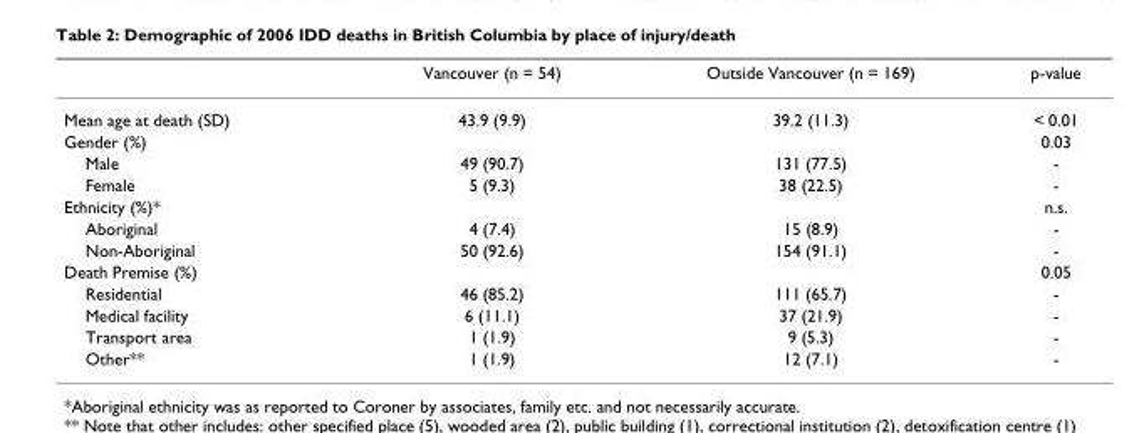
<table><thead><tr><td></td><td>Vancouver (n = 54)</td><td>Outside Vancouver (n = 169)</td><td>p-value</td></tr></thead><tbody><tr><td>Mean age at death (SD)</td><td>43.9 (9.9)</td><td>39.2 (11.3)</td><td>&lt; 0.01</td></tr><tr><td>Gender (%)</td><td></td><td></td><td>0.03</td></tr><tr><td>Male</td><td>49 (90.7)</td><td>131 (77.5)</td><td>-</td></tr><tr><td>Female</td><td>5 (9.3)</td><td>38 (22.5)</td><td>-</td></tr><tr><td>Ethnicity (%)*</td><td></td><td></td><td>n.s.</td></tr><tr><td>Aboriginal</td><td>4 (7.4)</td><td>15 (8.9)</td><td>-</td></tr><tr><td>Non-Aboriginal</td><td>50 (92.6)</td><td>154 (91.1)</td><td>-</td></tr><tr><td>Death Premise (%)</td><td></td><td></td><td>0.05</td></tr><tr><td>Residential</td><td>46 (85.2)</td><td>111 (65.7)</td><td>-</td></tr><tr><td>Medical facility</td><td>6 (11.1)</td><td>37 (21.9)</td><td>-</td></tr><tr><td>Transport area</td><td>1 (1.9)</td><td>9 (5.3)</td><td>-</td></tr><tr><td>Other**</td><td>1 (1.9)</td><td>12 (7.1)</td><td>-</td></tr></tbody></table>